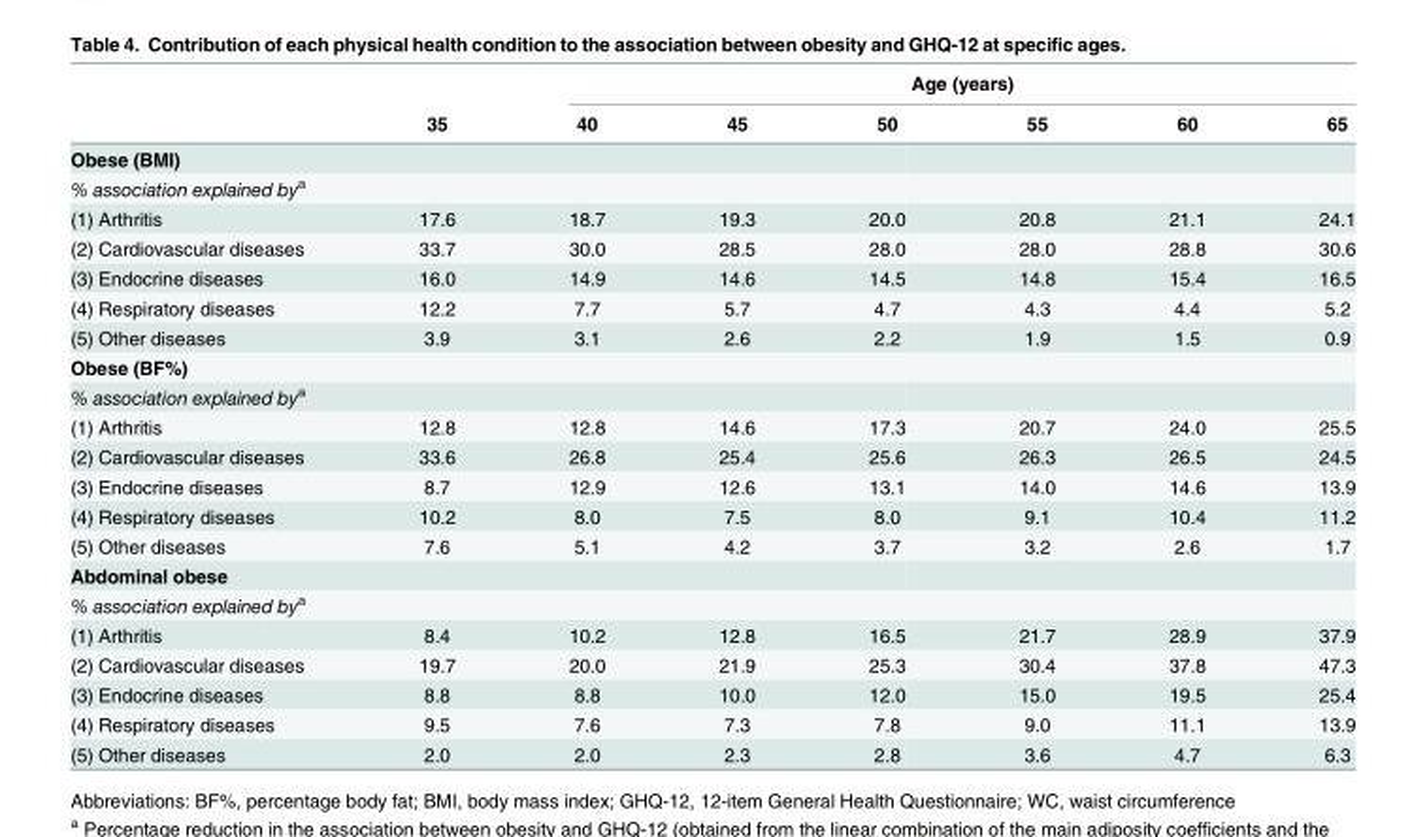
<table><thead><tr><td rowspan="2"></td><td rowspan="2">35</td><td colspan="6">Age (years)</td></tr><tr><td>40</td><td>45</td><td>50</td><td>55</td><td>60</td><td>65</td></tr></thead><tbody><tr><td colspan="8">Obese (BMI)</td></tr><tr><td colspan="8">% association explained by<sup>a</sup></td></tr><tr><td>(1) Arthritis</td><td>17.6</td><td>18.7</td><td>19.3</td><td>20.0</td><td>20.8</td><td>21.1</td><td>24.1</td></tr><tr><td>(2) Cardiovascular diseases</td><td>33.7</td><td>30.0</td><td>28.5</td><td>28.0</td><td>28.0</td><td>28.8</td><td>30.6</td></tr><tr><td>(3) Endocrine diseases</td><td>16.0</td><td>14.9</td><td>14.6</td><td>14.5</td><td>14.8</td><td>15.4</td><td>16.5</td></tr><tr><td>(4) Respiratory diseases</td><td>12.2</td><td>7.7</td><td>5.7</td><td>4.7</td><td>4.3</td><td>4.4</td><td>5.2</td></tr><tr><td>(5) Other diseases</td><td>3.9</td><td>3.1</td><td>2.6</td><td>2.2</td><td>1.9</td><td>1.5</td><td>0.9</td></tr><tr><td colspan="8">Obese (BF%)</td></tr><tr><td colspan="8">% association explained by<sup>a</sup></td></tr><tr><td>(1) Arthritis</td><td>12.8</td><td>12.8</td><td>14.6</td><td>17.3</td><td>20.7</td><td>24.0</td><td>25.5</td></tr><tr><td>(2) Cardiovascular diseases</td><td>33.6</td><td>26.8</td><td>25.4</td><td>25.6</td><td>26.3</td><td>26.5</td><td>24.5</td></tr><tr><td>(3) Endocrine diseases</td><td>8.7</td><td>12.9</td><td>12.6</td><td>13.1</td><td>14.0</td><td>14.6</td><td>13.9</td></tr><tr><td>(4) Respiratory diseases</td><td>10.2</td><td>8.0</td><td>7.5</td><td>8.0</td><td>9.1</td><td>10.4</td><td>11.2</td></tr><tr><td>(5) Other diseases</td><td>7.6</td><td>5.1</td><td>4.2</td><td>3.7</td><td>3.2</td><td>2.6</td><td>1.7</td></tr><tr><td colspan="8">Abdominal obese</td></tr><tr><td colspan="8">% association explained by<sup>a</sup></td></tr><tr><td>(1) Arthritis</td><td>8.4</td><td>10.2</td><td>12.8</td><td>16.5</td><td>21.7</td><td>28.9</td><td>37.9</td></tr><tr><td>(2) Cardiovascular diseases</td><td>19.7</td><td>20.0</td><td>21.9</td><td>25.3</td><td>30.4</td><td>37.8</td><td>47.3</td></tr><tr><td>(3) Endocrine diseases</td><td>8.8</td><td>8.8</td><td>10.0</td><td>12.0</td><td>15.0</td><td>19.5</td><td>25.4</td></tr><tr><td>(4) Respiratory diseases</td><td>9.5</td><td>7.6</td><td>7.3</td><td>7.8</td><td>9.0</td><td>11.1</td><td>13.9</td></tr><tr><td>(5) Other diseases</td><td>2.0</td><td>2.0</td><td>2.3</td><td>2.8</td><td>3.6</td><td>4.7</td><td>6.3</td></tr></tbody></table>